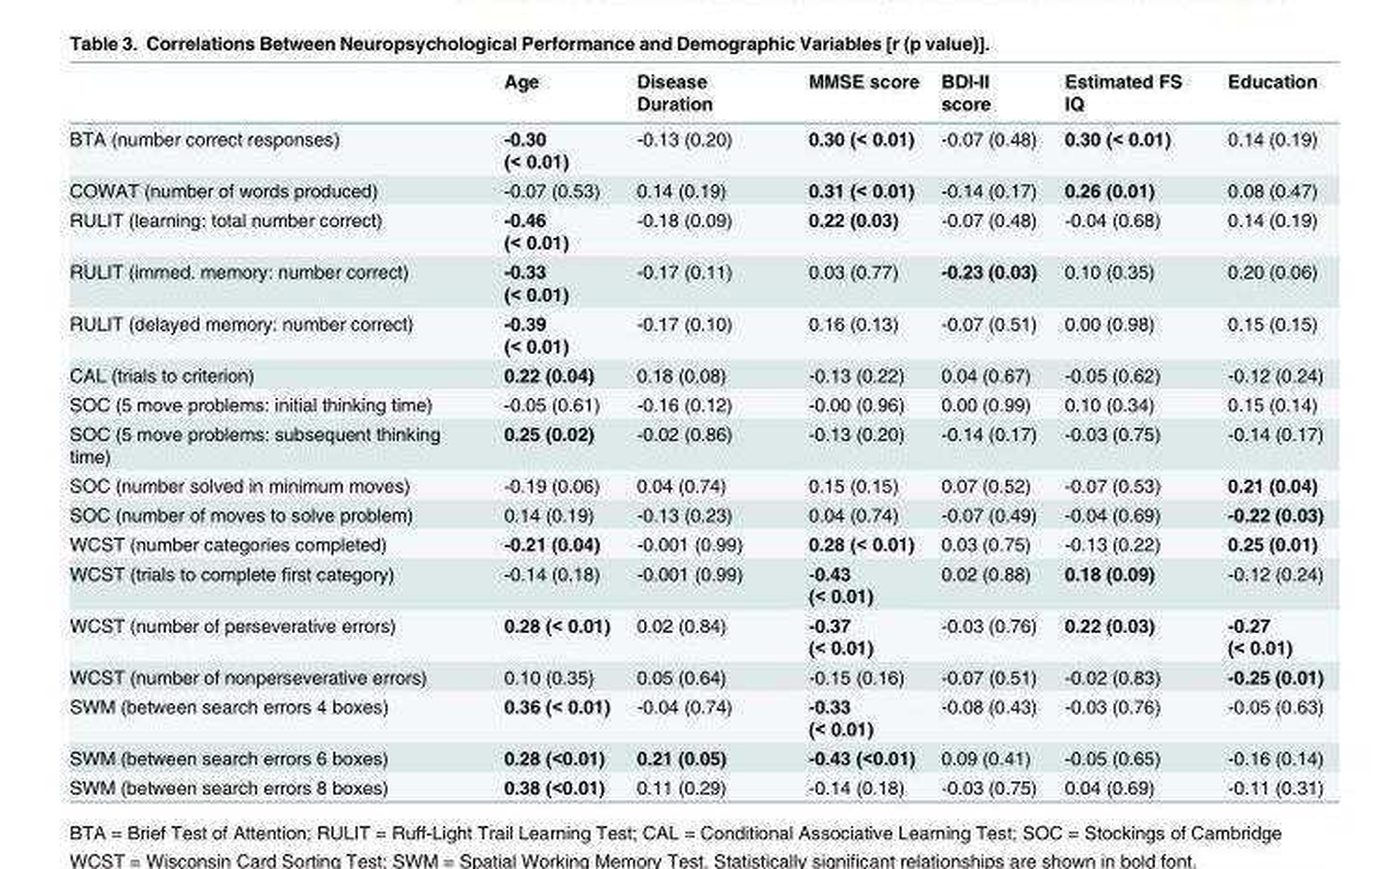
<table><thead><tr><td></td><td>Age</td><td>Disease Duration</td><td>MMSE score</td><td>BDI-II score</td><td>Estimated FS IQ</td><td>Education</td></tr></thead><tbody><tr><td>BTA (number correct responses)</td><td>-0.30 (&lt; 0.01)</td><td>-0.13 (0.20)</td><td>0.30 (&lt; 0.01)</td><td>-0.07 (0.48)</td><td>0.30 (&lt; 0.01)</td><td>0.14 (0.19)</td></tr><tr><td>COWAT (number of words produced)</td><td>-0.07 (0.53)</td><td>0.14 (0.19)</td><td>0.31 (&lt; 0.01)</td><td>-0.14 (0.17)</td><td>0.26 (0.01)</td><td>0.08 (0.47)</td></tr><tr><td>RULIT (learning: total number correct)</td><td>-0.46 (&lt; 0.01)</td><td>-0.18 (0.09)</td><td>0.22 (0.03)</td><td>-0.07 (0.48)</td><td>-0.04 (0.68)</td><td>0.14 (0.19)</td></tr><tr><td>RULIT (immed. memory: number correct)</td><td>-0.33 (&lt; 0.01)</td><td>-0.17 (0.11)</td><td>0.03 (0.77)</td><td>-0.23 (0.03)</td><td>0.10 (0.35)</td><td>0.20 (0.06)</td></tr><tr><td>RULIT (delayed memory: number correct)</td><td>-0.39 (&lt; 0.01)</td><td>-0.17 (0.10)</td><td>0.16 (0.13)</td><td>-0.07 (0.51)</td><td>0.00 (0.98)</td><td>0.15 (0.15)</td></tr><tr><td>CAL (trials to criterion)</td><td>0.22 (0.04)</td><td>0.18 (0.08)</td><td>-0.13 (0.22)</td><td>0.04 (0.67)</td><td>-0.05 (0.62)</td><td>-0.12 (0.24)</td></tr><tr><td>SOC (5 move problems: initial thinking time)</td><td>-0.05 (0.61)</td><td>-0.16 (0.12)</td><td>-0.00 (0.96)</td><td>0.00 (0.99)</td><td>0.10 (0.34)</td><td>0.15 (0.14)</td></tr><tr><td>SOC (5 move problems: subsequent thinking time)</td><td>0.25 (0.02)</td><td>-0.02 (0.86)</td><td>-0.13 (0.20)</td><td>-0.14 (0.17)</td><td>-0.03 (0.75)</td><td>-0.14 (0.17)</td></tr><tr><td>SOC (number solved in minimum moves)</td><td>-0.19 (0.06)</td><td>0.04 (0.74)</td><td>0.15 (0.15)</td><td>0.07 (0.52)</td><td>-0.07 (0.53)</td><td>0.21 (0.04)</td></tr><tr><td>SOC (number of moves to solve problem)</td><td>0.14 (0.19)</td><td>-0.13 (0.23)</td><td>0.04 (0.74)</td><td>-0.07 (0.49)</td><td>-0.04 (0.69)</td><td>-0.22 (0.03)</td></tr><tr><td>WCST (number categories completed)</td><td>-0.21 (0.04)</td><td>-0.001 (0.99)</td><td>0.28 (&lt; 0.01)</td><td>0.03 (0.75)</td><td>-0.13 (0.22)</td><td>0.25 (0.01)</td></tr><tr><td>WCST (trials to complete first category)</td><td>-0.14 (0.18)</td><td>-0.001 (0.99)</td><td>-0.43 (&lt; 0.01)</td><td>0.02 (0.88)</td><td>0.18 (0.09)</td><td>-0.12 (0.24)</td></tr><tr><td>WCST (number of perseverative errors)</td><td>0.28 (&lt; 0.01)</td><td>0.02 (0.84)</td><td>-0.37 (&lt; 0.01)</td><td>-0.03 (0.76)</td><td>0.22 (0.03)</td><td>-0.27 (&lt; 0.01)</td></tr><tr><td>WCST (number of nonperseverative errors)</td><td>0.10 (0.35)</td><td>0.05 (0.64)</td><td>-0.15 (0.16)</td><td>-0.07 (0.51)</td><td>-0.02 (0.83)</td><td>-0.25 (0.01)</td></tr><tr><td>SWM (between search errors 4 boxes)</td><td>0.36 (&lt; 0.01)</td><td>-0.04 (0.74)</td><td>-0.33 (&lt; 0.01)</td><td>-0.08 (0.43)</td><td>-0.03 (0.76)</td><td>-0.05 (0.63)</td></tr><tr><td>SWM (between search errors 6 boxes)</td><td>0.28 (&lt;0.01)</td><td>0.21 (0.05)</td><td>-0.43 (&lt;0.01)</td><td>0.09 (0.41)</td><td>-0.05 (0.65)</td><td>-0.16 (0.14)</td></tr><tr><td>SWM (between search errors 8 boxes)</td><td>0.38 (&lt;0.01)</td><td>0.11 (0.29)</td><td>-0.14 (0.18)</td><td>-0.03 (0.75)</td><td>0.04 (0.69)</td><td>-0.11 (0.31)</td></tr></tbody></table>